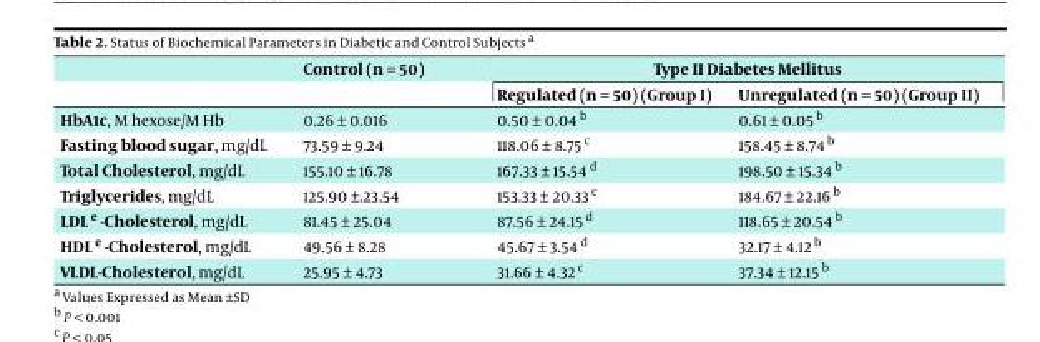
<table><thead><tr><td rowspan="2"></td><td rowspan="2">Control (n = 50)</td><td colspan="2">Type II Diabetes Mellitus</td></tr><tr><td>Regulated (n = 50) (Group I)</td><td>Unregulated (n = 50) (Group II)</td></tr></thead><tbody><tr><td>HbA1c, M hexose/M Hb</td><td>0.26 ± 0.016</td><td>0.50 ± 0.04 <sup>b</sup></td><td>0.61 ± 0.05 <sup>b</sup></td></tr><tr><td>Fasting blood sugar, mg/dL</td><td>73.59 ± 9.24</td><td>118.06 ± 8.75 <sup>c</sup></td><td>158.45 ± 8.74 <sup>b</sup></td></tr><tr><td>Total Cholesterol, mg/dL</td><td>155.10 ± 16.78</td><td>167.33 ± 15.54 <sup>d</sup></td><td>198.50 ± 15.34 <sup>b</sup></td></tr><tr><td>Triglycerides, mg/dL</td><td>125.90 ±.23.54</td><td>153.33 ± 20.33 <sup>c</sup></td><td>184.67 ± 22.16 <sup>b</sup></td></tr><tr><td>LDL <sup>e</sup> -Cholesterol, mg/dL</td><td>81.45 ± 25.04</td><td>87.56 ± 24.15 <sup>d</sup></td><td>118.65 ± 20.54 <sup>b</sup></td></tr><tr><td>HDL <sup>e</sup> -Cholesterol, mg/dL</td><td>49.56 ± 8.28</td><td>45.67 ± 3.54 <sup>d</sup></td><td>32.17 ± 4.12 <sup>b</sup></td></tr><tr><td>VLDL-Cholesterol, mg/dL</td><td>25.95 ± 4.73</td><td>31.66 ± 4.32 <sup>c</sup></td><td>37.34 ± 12.15 <sup>b</sup></td></tr></tbody></table>